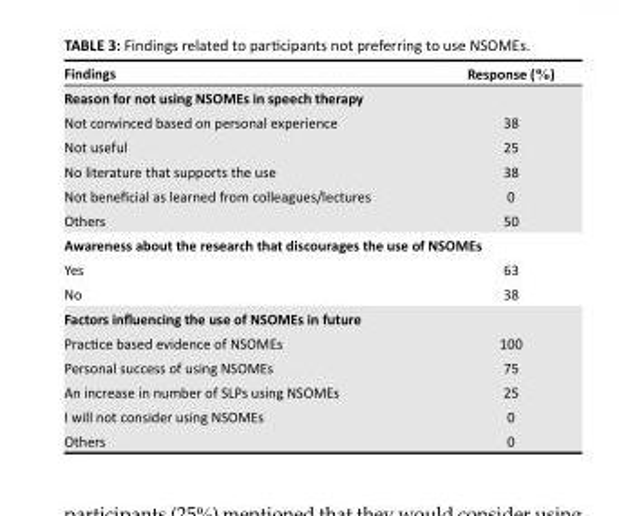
<table><thead><tr><td>Findings</td><td>Response (%)</td></tr></thead><tbody><tr><td colspan="2">Reason for not using NSOMEs in speech therapy</td></tr><tr><td>Not convinced based on personal experience</td><td>38</td></tr><tr><td>Not useful</td><td>25</td></tr><tr><td>No literature that supports the use</td><td>38</td></tr><tr><td>Not beneficial as learned from colleagues/lectures</td><td>0</td></tr><tr><td>Others</td><td>50</td></tr><tr><td colspan="2">Awareness about the research that discourages the use of NSOMEs</td></tr><tr><td>Yes</td><td>63</td></tr><tr><td>No</td><td>38</td></tr><tr><td colspan="2">Factors influencing the use of NSOMEs in future</td></tr><tr><td>Practice based evidence of NSOMEs</td><td>100</td></tr><tr><td>Personal success of using NSOMEs</td><td>75</td></tr><tr><td>An increase in number of SLPs using NSOMEs</td><td>25</td></tr><tr><td>I will not consider using NSOMEs</td><td>0</td></tr><tr><td>Others</td><td>0</td></tr></tbody></table>